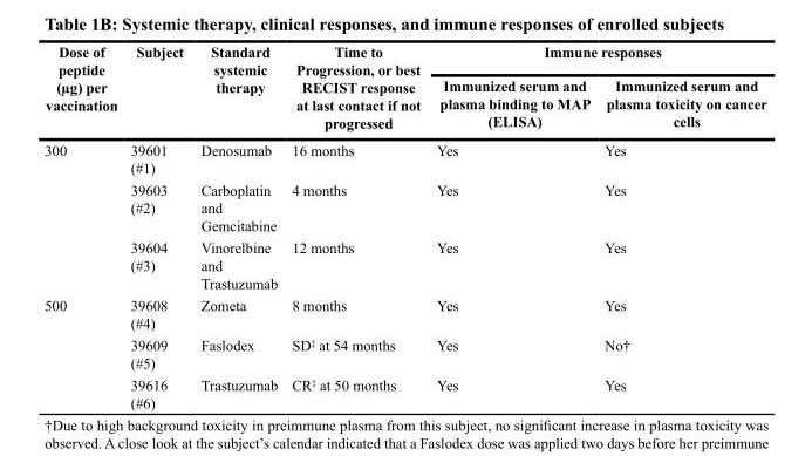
<table><thead><tr><td rowspan="2">Dose of peptide (µg) per vaccination</td><td rowspan="2">Subject</td><td rowspan="2">Standard systemic therapy</td><td rowspan="2">Time to Progression, or best RECIST response at last contact if not progressed</td><td colspan="2">Immune responses</td></tr><tr><td>Immunized serum and plasma binding to MAP (ELISA)</td><td>Immunized serum and plasma toxicity on cancer cells</td></tr></thead><tbody><tr><td rowspan="3">300</td><td>39601 (#1)</td><td>Denosumab</td><td>16 months</td><td>Yes</td><td>Yes</td></tr><tr><td>39603 (#2)</td><td>Carboplatin and Gemcitabine</td><td>4 months</td><td>Yes</td><td>Yes</td></tr><tr><td>39604 (#3)</td><td>Vinorelbine and Trastuzumab</td><td>12 months</td><td>Yes</td><td>Yes</td></tr><tr><td rowspan="3">500</td><td>39608 (#4)</td><td>Zometa</td><td>8 months</td><td>Yes</td><td>Yes</td></tr><tr><td>39609 (#5)</td><td>Faslodex</td><td>SD<sup>‡</sup> at 54 months</td><td>Yes</td><td>No†</td></tr><tr><td>39616 (#6)</td><td>Trastuzumab</td><td>CR<sup>‡</sup> at 50 months</td><td>Yes</td><td>Yes</td></tr></tbody></table>